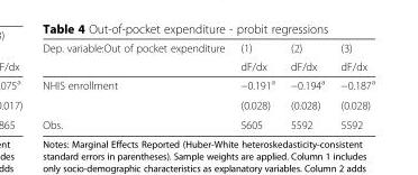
<table><thead><tr><td rowspan="2">Dep. variable:Out of pocket expenditure</td><td rowspan="2">(1) dF/dx</td><td rowspan="2">(2) dF/dx</td><td rowspan="2">(3) dF/dx</td></tr><tr></tr></thead><tbody><tr><td rowspan="2">NHIS enrollment</td><td>−0.191<sup>a</sup></td><td>−0.194<sup>a</sup></td><td>−0.187<sup>a</sup></td></tr><tr><td>(0.028)</td><td>(0.028)</td><td>(0.028)</td></tr><tr><td>Obs.</td><td>5605</td><td>5592</td><td>5592</td></tr></tbody></table>